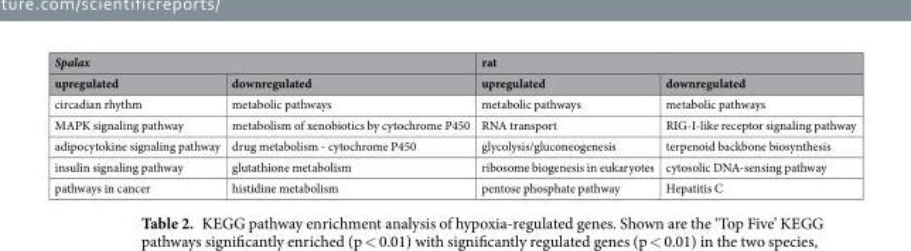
<table><thead><tr><td colspan="2">Spalax</td><td colspan="2">rat</td></tr><tr><td>upregulated</td><td>downregulated</td><td>upregulated</td><td>downregulated</td></tr></thead><tbody><tr><td>circadian rhythm</td><td>metabolic pathways</td><td>metabolic pathways</td><td>metabolic pathways</td></tr><tr><td>MAPK signaling pathway</td><td>metabolism of xenobiotics by cytochrome P450</td><td>RNA transport</td><td>RIG-I-like receptor signaling pathway</td></tr><tr><td>adipocytokine signaling pathway</td><td>drug metabolism - cytochrome P450</td><td>glycolysis/gluconeogenesis</td><td>terpenoid backbone biosynthesis</td></tr><tr><td>insulin signaling pathway</td><td>glutathione metabolism</td><td>ribosome biogenesis in eukaryotes</td><td>cytosolic DNA-sensing pathway</td></tr><tr><td>pathways in cancer</td><td>histidine metabolism</td><td>pentose phosphate pathway</td><td>Hepatitis C</td></tr></tbody></table>